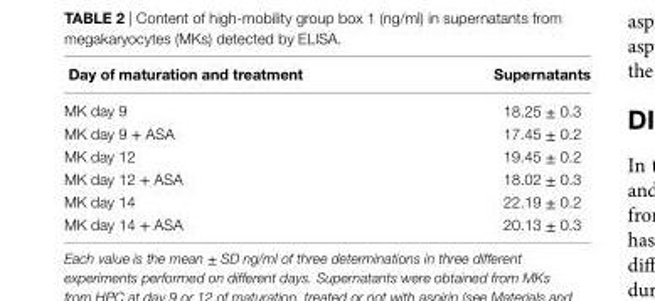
<table><thead><tr><td>Day of maturation and treatment</td><td>supernatants</td></tr></thead><tbody><tr><td>MK day 9</td><td>18.25 ± 0.3</td></tr><tr><td>MK day 9 + ASA</td><td>17.45 ± 0.2</td></tr><tr><td>MK day 12</td><td>19.45 ± 0.2</td></tr><tr><td>MK day 12 + ASA</td><td>18.02 ± 0.3</td></tr><tr><td>MK day 14</td><td>22.19 ± 0.2</td></tr><tr><td>MK day 14 + ASA</td><td>20.13 ± 0.3</td></tr></tbody></table>